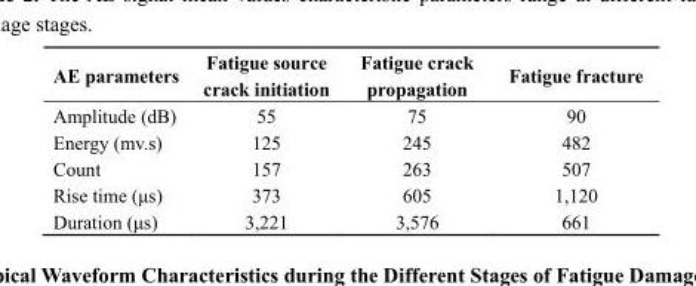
<table><thead><tr><td>AE parameters</td><td>Fatigue source crack initiation</td><td>Fatigue crack propagation</td><td>Fatigue fracture</td></tr></thead><tbody><tr><td>Amplitude (dB)</td><td>55</td><td>75</td><td>90</td></tr><tr><td>Energy (mv.s)</td><td>125</td><td>245</td><td>482</td></tr><tr><td>Count</td><td>157</td><td>263</td><td>507</td></tr><tr><td>Rise time (μs)</td><td>373</td><td>605</td><td>1,120</td></tr><tr><td>Duration (μs)</td><td>3,221</td><td>3,576</td><td>661</td></tr></tbody></table>